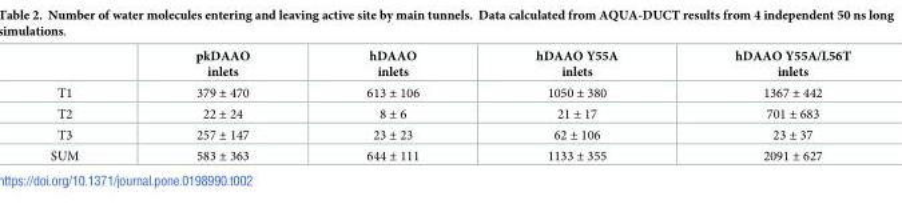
<table><thead><tr><td></td><td>pkDAAO inlets</td><td>hDAAO inlets</td><td>hDAAO Y55A inlets</td><td>hDAAO Y55A/L56T inlets</td></tr></thead><tbody><tr><td>T1</td><td>379 ± 470</td><td>613 ± 106</td><td>1050 ± 380</td><td>1367 ± 442</td></tr><tr><td>T2</td><td>22 ± 24</td><td>8 ± 6</td><td>21 ± 17</td><td>701 ± 683</td></tr><tr><td>T3</td><td>257 ± 147</td><td>23 ± 23</td><td>62 ± 106</td><td>23 ± 37</td></tr><tr><td>SUM</td><td>583 ± 363</td><td>644 ± 111</td><td>1133 ± 355</td><td>2091 ± 627</td></tr></tbody></table>